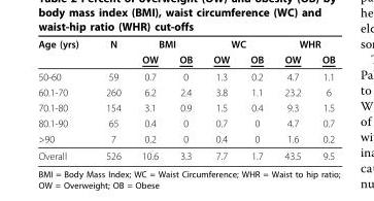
<table><thead><tr><td rowspan="2">Age (yrs)</td><td rowspan="2">N</td><td colspan="2">BMI</td><td colspan="2">WC</td><td colspan="2">WHR</td></tr><tr><td>OW</td><td>OB</td><td>OW</td><td>OB</td><td>OW</td><td>OB</td></tr></thead><tbody><tr><td>50-60</td><td>59</td><td>0.7</td><td>0</td><td>1.3</td><td>0.2</td><td>4.7</td><td>1.1</td></tr><tr><td>60.1-70</td><td>260</td><td>6.2</td><td>2.4</td><td>3.8</td><td>1.1</td><td>23.2</td><td>6</td></tr><tr><td>70.1-80</td><td>154</td><td>3.1</td><td>0.9</td><td>1.5</td><td>0.4</td><td>9.3</td><td>1.5</td></tr><tr><td>80.1-90</td><td>65</td><td>0.4</td><td>0</td><td>0.7</td><td>0</td><td>4.7</td><td>0.7</td></tr><tr><td>&gt;90</td><td>7</td><td>0.2</td><td>0</td><td>0.4</td><td>0</td><td>1.6</td><td>0.2</td></tr><tr><td>Overall</td><td>526</td><td>10.6</td><td>3.3</td><td>7.7</td><td>1.7</td><td>43.5</td><td>9.5</td></tr></tbody></table>